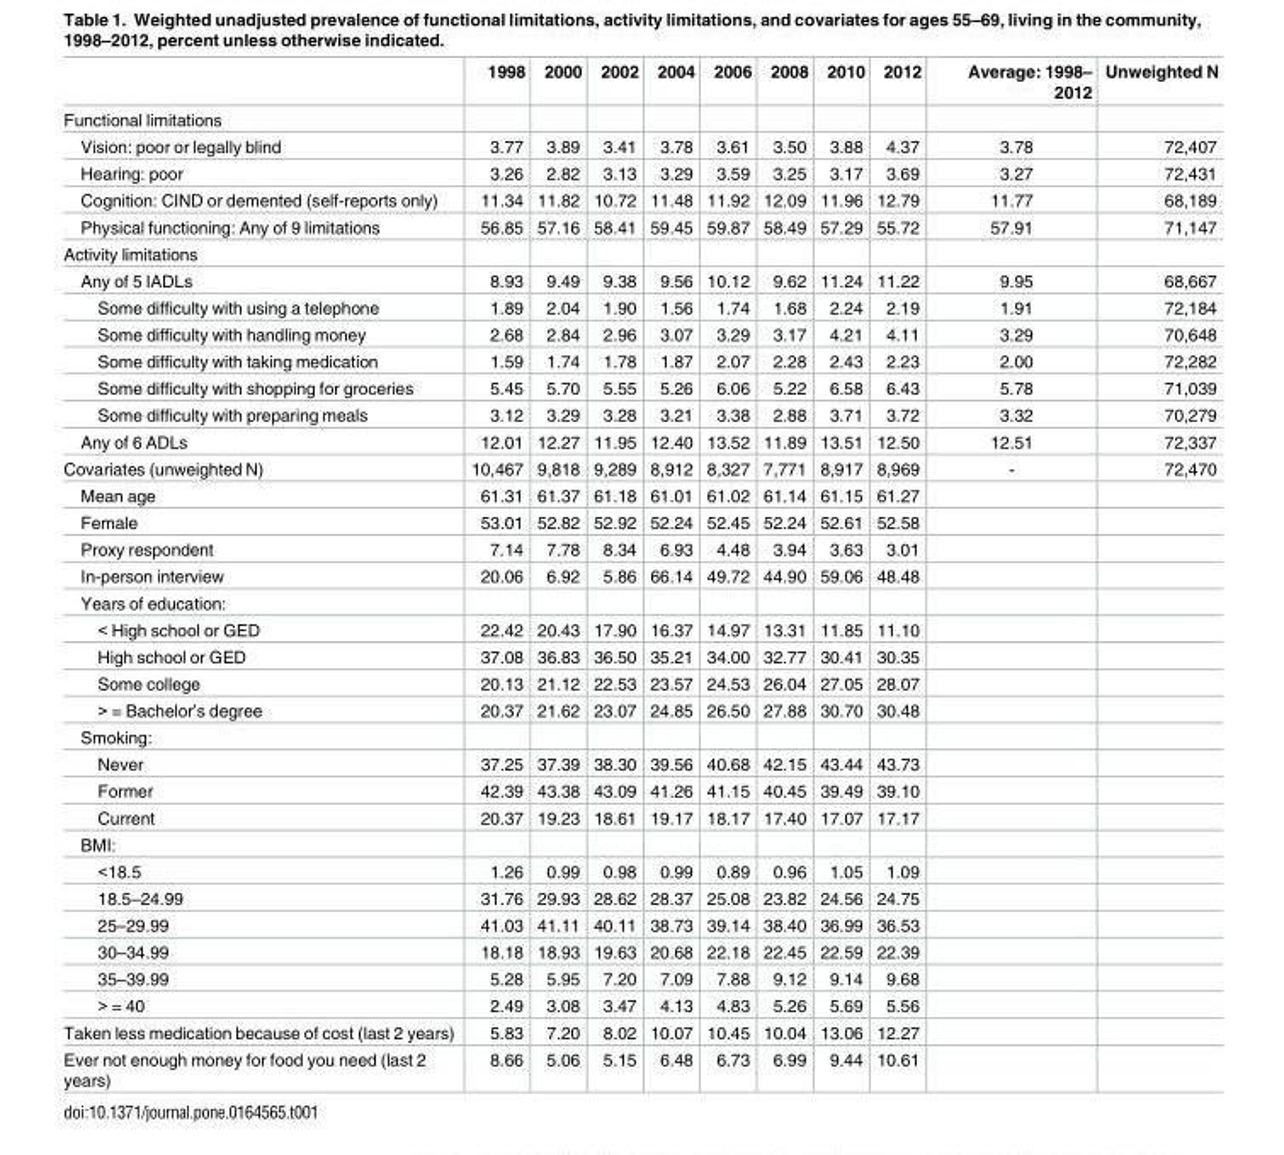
<table><thead><tr><td></td><td>1998</td><td>2000</td><td>2002</td><td>2004</td><td>2006</td><td>2008</td><td>2010</td><td>2012</td><td>Average: 1998– 2012</td><td>Unweighted N</td></tr></thead><tbody><tr><td colspan="11">Functional limitations</td></tr><tr><td>Vision: poor or legally blind</td><td>3.77</td><td>3.89</td><td>3.41</td><td>3.78</td><td>3.61</td><td>3.50</td><td>3.88</td><td>4.37</td><td>3.78</td><td>72,407</td></tr><tr><td>Hearing: poor</td><td>3.26</td><td>2.82</td><td>3.13</td><td>3.29</td><td>3.59</td><td>3.25</td><td>3.17</td><td>3.69</td><td>3.27</td><td>72,431</td></tr><tr><td>Cognition: CIND or demented (self-reports only)</td><td>11.34</td><td>11.82</td><td>10.72</td><td>11.48</td><td>11.92</td><td>12.09</td><td>11.96</td><td>12.79</td><td>11.77</td><td>68,189</td></tr><tr><td>Physical functioning: Any of 9 limitations</td><td>56.85</td><td>57.16</td><td>58.41</td><td>59.45</td><td>59.87</td><td>58.49</td><td>57.29</td><td>55.72</td><td>57.91</td><td>71,147</td></tr><tr><td colspan="11">Activity limitations</td></tr><tr><td>Any of 5 IADLs</td><td>8.93</td><td>9.49</td><td>9.38</td><td>9.56</td><td>10.12</td><td>9.62</td><td>11.24</td><td>11.22</td><td>9.95</td><td>68,667</td></tr><tr><td>Some difficulty with using a telephone</td><td>1.89</td><td>2.04</td><td>1.90</td><td>1.56</td><td>1.74</td><td>1.68</td><td>2.24</td><td>2.19</td><td>1.91</td><td>72,184</td></tr><tr><td>Some difficulty with handling money</td><td>2.68</td><td>2.84</td><td>2.96</td><td>3.07</td><td>3.29</td><td>3.17</td><td>4.21</td><td>4.11</td><td>3.29</td><td>70,648</td></tr><tr><td>Some difficulty with taking medication</td><td>1.59</td><td>1.74</td><td>1.78</td><td>1.87</td><td>2.07</td><td>2.28</td><td>2.43</td><td>2.23</td><td>2.00</td><td>72,282</td></tr><tr><td>Some difficulty with shopping for groceries</td><td>5.45</td><td>5.70</td><td>5.55</td><td>5.26</td><td>6.06</td><td>5.22</td><td>6.58</td><td>6.43</td><td>5.78</td><td>71,039</td></tr><tr><td>Some difficulty with preparing meals</td><td>3.12</td><td>3.29</td><td>3.28</td><td>3.21</td><td>3.38</td><td>2.88</td><td>3.71</td><td>3.72</td><td>3.32</td><td>70,279</td></tr><tr><td>Any of 6 ADLs</td><td>12.01</td><td>12.27</td><td>11.95</td><td>12.40</td><td>13.52</td><td>11.89</td><td>13.51</td><td>12.50</td><td>12.51</td><td>72,337</td></tr><tr><td>Covariates (unweighted N)</td><td>10,467</td><td>9,818</td><td>9,289</td><td>8,912</td><td>8,327</td><td>7,771</td><td>8,917</td><td>8,969</td><td>-</td><td>72,470</td></tr><tr><td>Mean age</td><td>61.31</td><td>61.37</td><td>61.18</td><td>61.01</td><td>61.02</td><td>61.14</td><td>61.15</td><td>61.27</td><td></td><td></td></tr><tr><td>Female</td><td>53.01</td><td>52.82</td><td>52.92</td><td>52.24</td><td>52.45</td><td>52.24</td><td>52.61</td><td>52.58</td><td></td><td></td></tr><tr><td>Proxy respondent</td><td>7.14</td><td>7.78</td><td>8.34</td><td>6.93</td><td>4.48</td><td>3.94</td><td>3.63</td><td>3.01</td><td></td><td></td></tr><tr><td>In-person interview</td><td>20.06</td><td>6.92</td><td>5.86</td><td>66.14</td><td>49.72</td><td>44.90</td><td>59.06</td><td>48.48</td><td></td><td></td></tr><tr><td colspan="11">Years of education:</td></tr><tr><td>&lt; High school or GED</td><td>22.42</td><td>20.43</td><td>17.90</td><td>16.37</td><td>14.97</td><td>13.31</td><td>11.85</td><td>11.10</td><td></td><td></td></tr><tr><td>High school or GED</td><td>37.08</td><td>36.83</td><td>36.50</td><td>35.21</td><td>34.00</td><td>32.77</td><td>30.41</td><td>30.35</td><td></td><td></td></tr><tr><td>Some college</td><td>20.13</td><td>21.12</td><td>22.53</td><td>23.57</td><td>24.53</td><td>26.04</td><td>27.05</td><td>28.07</td><td></td><td></td></tr><tr><td>&gt; = Bachelor’s degree</td><td>20.37</td><td>21.62</td><td>23.07</td><td>24.85</td><td>26.50</td><td>27.88</td><td>30.70</td><td>30.48</td><td></td><td></td></tr><tr><td colspan="11">Smoking:</td></tr><tr><td>Never</td><td>37.25</td><td>37.39</td><td>38.30</td><td>39.56</td><td>40.68</td><td>42.15</td><td>43.44</td><td>43.73</td><td></td><td></td></tr><tr><td>Former</td><td>42.39</td><td>43.38</td><td>43.09</td><td>41.26</td><td>41.15</td><td>40.45</td><td>39.49</td><td>39.10</td><td></td><td></td></tr><tr><td>Current</td><td>20.37</td><td>19.23</td><td>18.61</td><td>19.17</td><td>18.17</td><td>17.40</td><td>17.07</td><td>17.17</td><td></td><td></td></tr><tr><td colspan="11">BMI:</td></tr><tr><td>&lt;18.5</td><td>1.26</td><td>0.99</td><td>0.98</td><td>0.99</td><td>0.89</td><td>0.96</td><td>1.05</td><td>1.09</td><td></td><td></td></tr><tr><td>18.5–24.99</td><td>31.76</td><td>29.93</td><td>28.62</td><td>28.37</td><td>25.08</td><td>23.82</td><td>24.56</td><td>24.75</td><td></td><td></td></tr><tr><td>25–29.99</td><td>41.03</td><td>41.11</td><td>40.11</td><td>38.73</td><td>39.14</td><td>38.40</td><td>36.99</td><td>36.53</td><td></td><td></td></tr><tr><td>30–34.99</td><td>18.18</td><td>18.93</td><td>19.63</td><td>20.68</td><td>22.18</td><td>22.45</td><td>22.59</td><td>22.39</td><td></td><td></td></tr><tr><td>35–39.99</td><td>5.28</td><td>5.95</td><td>7.20</td><td>7.09</td><td>7.88</td><td>9.12</td><td>9.14</td><td>9.68</td><td></td><td></td></tr><tr><td>&gt; = 40</td><td>2.49</td><td>3.08</td><td>3.47</td><td>4.13</td><td>4.83</td><td>5.26</td><td>5.69</td><td>5.56</td><td></td><td></td></tr><tr><td>Taken less medication because of cost (last 2 years)</td><td>5.83</td><td>7.20</td><td>8.02</td><td>10.07</td><td>10.45</td><td>10.04</td><td>13.06</td><td>12.27</td><td></td><td></td></tr><tr><td>Ever not enough money for food you need (last 2 years)</td><td>8.66</td><td>5.06</td><td>5.15</td><td>6.48</td><td>6.73</td><td>6.99</td><td>9.44</td><td>10.61</td><td></td><td></td></tr></tbody></table>